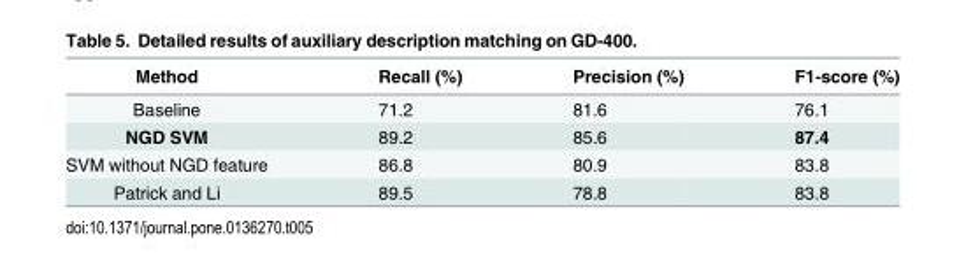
<table><thead><tr><td>Method</td><td>Recall (%)</td><td>Precision (%)</td><td>F1-score (%)</td></tr></thead><tbody><tr><td>Baseline</td><td>71.2</td><td>81.6</td><td>76.1</td></tr><tr><td>NGD SVM</td><td>89.2</td><td>85.6</td><td>87.4</td></tr><tr><td>SVM without NGD feature</td><td>86.8</td><td>80.9</td><td>83.8</td></tr><tr><td>Patrick and Li</td><td>89.5</td><td>78.8</td><td>83.8</td></tr></tbody></table>